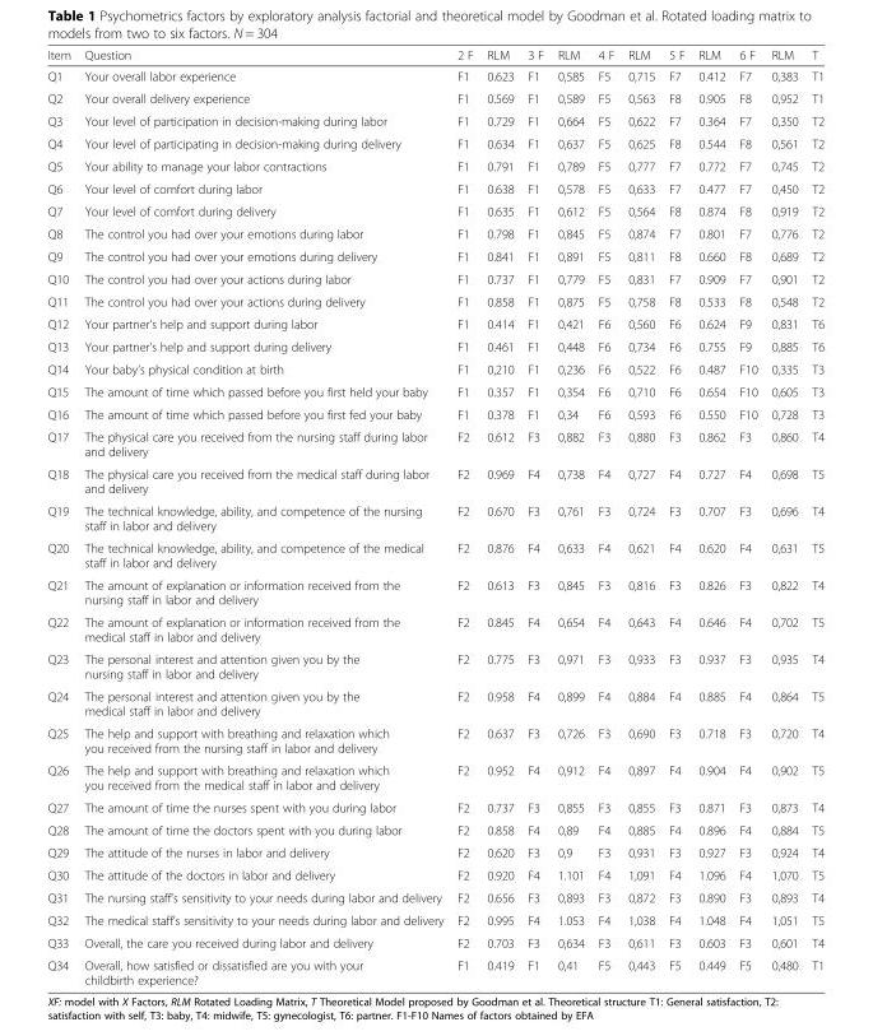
<table><thead><tr><td>Item</td><td>Question</td><td>2 F</td><td>RLM</td><td>3 F</td><td>RLM</td><td>4 F</td><td>RLM</td><td>5 F</td><td>RLM</td><td>6 F</td><td>RLM</td><td>T</td></tr></thead><tbody><tr><td>Q1</td><td>Your overall labor experience</td><td>F1</td><td>0.623</td><td>F1</td><td>0,585</td><td>F5</td><td>0,715</td><td>F7</td><td>0.412</td><td>F7</td><td>0,383</td><td>T1</td></tr><tr><td>Q2</td><td>Your overall delivery experience</td><td>F1</td><td>0.569</td><td>F1</td><td>0,589</td><td>F5</td><td>0,563</td><td>F8</td><td>0.905</td><td>F8</td><td>0,952</td><td>T1</td></tr><tr><td>Q3</td><td>Your level of participation in decision-making during labor</td><td>F1</td><td>0.729</td><td>F1</td><td>0,664</td><td>F5</td><td>0,622</td><td>F7</td><td>0.364</td><td>F7</td><td>0,350</td><td>T2</td></tr><tr><td>Q4</td><td>Your level of participating in decision-making during delivery</td><td>F1</td><td>0.634</td><td>F1</td><td>0,637</td><td>F5</td><td>0,625</td><td>F8</td><td>0.544</td><td>F8</td><td>0,561</td><td>T2</td></tr><tr><td>Q5</td><td>Your ability to manage your labor contractions</td><td>F1</td><td>0.791</td><td>F1</td><td>0,789</td><td>F5</td><td>0,777</td><td>F7</td><td>0.772</td><td>F7</td><td>0,745</td><td>T2</td></tr><tr><td>Q6</td><td>Your level of comfort during labor</td><td>F1</td><td>0.638</td><td>F1</td><td>0,578</td><td>F5</td><td>0,633</td><td>F7</td><td>0.477</td><td>F7</td><td>0,450</td><td>T2</td></tr><tr><td>Q7</td><td>Your level of comfort during delivery</td><td>F1</td><td>0.635</td><td>F1</td><td>0,612</td><td>F5</td><td>0,564</td><td>F8</td><td>0.874</td><td>F8</td><td>0,919</td><td>T2</td></tr><tr><td>Q8</td><td>The control you had over your emotions during labor</td><td>F1</td><td>0.798</td><td>F1</td><td>0,845</td><td>F5</td><td>0,874</td><td>F7</td><td>0.801</td><td>F7</td><td>0,776</td><td>T2</td></tr><tr><td>Q9</td><td>The control you had over your emotions during delivery</td><td>F1</td><td>0.841</td><td>F1</td><td>0,891</td><td>F5</td><td>0,811</td><td>F8</td><td>0.660</td><td>F8</td><td>0,689</td><td>T2</td></tr><tr><td>Q10</td><td>The control you had over your actions during labor</td><td>F1</td><td>0.737</td><td>F1</td><td>0,779</td><td>F5</td><td>0,831</td><td>F7</td><td>0.909</td><td>F7</td><td>0,901</td><td>T2</td></tr><tr><td>Q11</td><td>The control you had over your actions during delivery</td><td>F1</td><td>0.858</td><td>F1</td><td>0,875</td><td>F5</td><td>0,758</td><td>F8</td><td>0.533</td><td>F8</td><td>0,548</td><td>T2</td></tr><tr><td>Q12</td><td>Your partner’s help and support during labor</td><td>F1</td><td>0.414</td><td>F1</td><td>0,421</td><td>F6</td><td>0,560</td><td>F6</td><td>0.624</td><td>F9</td><td>0,831</td><td>T6</td></tr><tr><td>Q13</td><td>Your partner’s help and support during delivery</td><td>F1</td><td>0.461</td><td>F1</td><td>0,448</td><td>F6</td><td>0,734</td><td>F6</td><td>0.755</td><td>F9</td><td>0,885</td><td>T6</td></tr><tr><td>Q14</td><td>Your baby’s physical condition at birth</td><td>F1</td><td>0,210</td><td>F1</td><td>0,236</td><td>F6</td><td>0,522</td><td>F6</td><td>0.487</td><td>F10</td><td>0,335</td><td>T3</td></tr><tr><td>Q15</td><td>The amount of time which passed before you first held your baby</td><td>F1</td><td>0.357</td><td>F1</td><td>0,354</td><td>F6</td><td>0,710</td><td>F6</td><td>0.654</td><td>F10</td><td>0,605</td><td>T3</td></tr><tr><td>Q16</td><td>The amount of time which passed before you first fed your baby</td><td>F1</td><td>0.378</td><td>F1</td><td>0,34</td><td>F6</td><td>0,593</td><td>F6</td><td>0.550</td><td>F10</td><td>0,728</td><td>T3</td></tr><tr><td>Q17</td><td>The physical care you received from the nursing staff during labor and delivery</td><td>F2</td><td>0.612</td><td>F3</td><td>0,882</td><td>F3</td><td>0,880</td><td>F3</td><td>0.862</td><td>F3</td><td>0,860</td><td>T4</td></tr><tr><td>Q18</td><td>The physical care you received from the medical staff during labor and delivery</td><td>F2</td><td>0.969</td><td>F4</td><td>0,738</td><td>F4</td><td>0,727</td><td>F4</td><td>0.727</td><td>F4</td><td>0,698</td><td>T5</td></tr><tr><td>Q19</td><td>The technical knowledge, ability, and competence of the nursing staff in labor and delivery</td><td>F2</td><td>0.670</td><td>F3</td><td>0,761</td><td>F3</td><td>0,724</td><td>F3</td><td>0.707</td><td>F3</td><td>0,696</td><td>T4</td></tr><tr><td>Q20</td><td>The technical knowledge, ability, and competence of the medical staff in labor and delivery</td><td>F2</td><td>0.876</td><td>F4</td><td>0,633</td><td>F4</td><td>0,621</td><td>F4</td><td>0.620</td><td>F4</td><td>0,631</td><td>T5</td></tr><tr><td>Q21</td><td>The amount of explanation or information received from the nursing staff in labor and delivery</td><td>F2</td><td>0.613</td><td>F3</td><td>0,845</td><td>F3</td><td>0,816</td><td>F3</td><td>0.826</td><td>F3</td><td>0,822</td><td>T4</td></tr><tr><td>Q22</td><td>The amount of explanation or information received from the medical staff in labor and delivery</td><td>F2</td><td>0.845</td><td>F4</td><td>0,654</td><td>F4</td><td>0,643</td><td>F4</td><td>0.646</td><td>F4</td><td>0,702</td><td>T5</td></tr><tr><td>Q23</td><td>The personal interest and attention given you by the nursing staff in labor and delivery</td><td>F2</td><td>0.775</td><td>F3</td><td>0,971</td><td>F3</td><td>0,933</td><td>F3</td><td>0.937</td><td>F3</td><td>0,935</td><td>T4</td></tr><tr><td>Q24</td><td>The personal interest and attention given you by the medical staff in labor and delivery</td><td>F2</td><td>0.958</td><td>F4</td><td>0,899</td><td>F4</td><td>0,884</td><td>F4</td><td>0.885</td><td>F4</td><td>0,864</td><td>T5</td></tr><tr><td>Q25</td><td>The help and support with breathing and relaxation which you received from the nursing staff in labor and delivery</td><td>F2</td><td>0.637</td><td>F3</td><td>0,726</td><td>F3</td><td>0,690</td><td>F3</td><td>0.718</td><td>F3</td><td>0,720</td><td>T4</td></tr><tr><td>Q26</td><td>The help and support with breathing and relaxation which you received from the medical staff in labor and delivery</td><td>F2</td><td>0.952</td><td>F4</td><td>0,912</td><td>F4</td><td>0,897</td><td>F4</td><td>0.904</td><td>F4</td><td>0,902</td><td>T5</td></tr><tr><td>Q27</td><td>The amount of time the nurses spent with you during labor</td><td>F2</td><td>0.737</td><td>F3</td><td>0,855</td><td>F3</td><td>0,855</td><td>F3</td><td>0.871</td><td>F3</td><td>0,873</td><td>T4</td></tr><tr><td>Q28</td><td>The amount of time the doctors spent with you during labor</td><td>F2</td><td>0.858</td><td>F4</td><td>0,89</td><td>F4</td><td>0,885</td><td>F4</td><td>0.896</td><td>F4</td><td>0,884</td><td>T5</td></tr><tr><td>Q29</td><td>The attitude of the nurses in labor and delivery</td><td>F2</td><td>0.620</td><td>F3</td><td>0,9</td><td>F3</td><td>0,931</td><td>F3</td><td>0.927</td><td>F3</td><td>0,924</td><td>T4</td></tr><tr><td>Q30</td><td>The attitude of the doctors in labor and delivery</td><td>F2</td><td>0.920</td><td>F4</td><td>1.101</td><td>F4</td><td>1,091</td><td>F4</td><td>1.096</td><td>F4</td><td>1,070</td><td>T5</td></tr><tr><td>Q31</td><td>The nursing staff’s sensitivity to your needs during labor and delivery</td><td>F2</td><td>0.656</td><td>F3</td><td>0,893</td><td>F3</td><td>0,872</td><td>F3</td><td>0.890</td><td>F3</td><td>0,893</td><td>T4</td></tr><tr><td>Q32</td><td>The medical staff’s sensitivity to your needs during labor and delivery</td><td>F2</td><td>0.995</td><td>F4</td><td>1.053</td><td>F4</td><td>1,038</td><td>F4</td><td>1.048</td><td>F4</td><td>1,051</td><td>T5</td></tr><tr><td>Q33</td><td>Overall, the care you received during labor and delivery</td><td>F2</td><td>0.703</td><td>F3</td><td>0,634</td><td>F3</td><td>0,611</td><td>F3</td><td>0.603</td><td>F3</td><td>0,601</td><td>T4</td></tr><tr><td>Q34</td><td>Overall, how satisfied or dissatisfied are you with your childbirth experience?</td><td>F1</td><td>0.419</td><td>F1</td><td>0,41</td><td>F5</td><td>0,443</td><td>F5</td><td>0.449</td><td>F5</td><td>0,480</td><td>T1</td></tr></tbody></table>